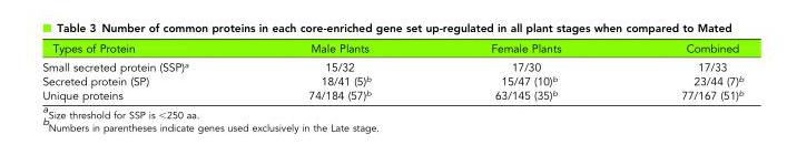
<table><thead><tr><td>Types of Protein</td><td>Male Plants</td><td>Female Plants</td><td>Combined</td></tr></thead><tbody><tr><td>Small secreted protein (SSP)<sup>a</sup></td><td>15/32</td><td>17/30</td><td>17/33</td></tr><tr><td>Secreted protein (SP)</td><td>18/41 (5)<sup>b</sup></td><td>15/47 (10)<sup>b</sup></td><td>23/44 (7)<sup>b</sup></td></tr><tr><td>Unique proteins</td><td>74/184 (57)<sup>b</sup></td><td>63/145 (35)<sup>b</sup></td><td>77/167 (51)<sup>b</sup></td></tr></tbody></table>